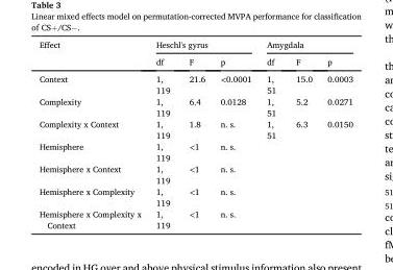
<table><thead><tr><td rowspan="2">Effect</td><td colspan="3">Heschl&#x27;s gyrus</td><td colspan="3">Amygdala</td></tr><tr><td>df</td><td>F</td><td>p</td><td>df</td><td>F</td><td>p</td></tr></thead><tbody><tr><td>Context</td><td>1, 119</td><td>21.6</td><td>&lt;0.0001</td><td>1, 51</td><td>15.0</td><td>0.0003</td></tr><tr><td>Complexity</td><td>1, 119</td><td>6.4</td><td>0.0128</td><td>1, 51</td><td>5.2</td><td>0.0271</td></tr><tr><td>Complexity x Context</td><td>1, 119</td><td>1.8</td><td>n. s.</td><td>1, 51</td><td>6.3</td><td>0.0150</td></tr><tr><td>Hemisphere</td><td>1, 119</td><td>&lt;1</td><td>n. s.</td><td></td><td></td><td></td></tr><tr><td>Hemisphere x Context</td><td>1, 119</td><td>&lt;1</td><td>n. s.</td><td></td><td></td><td></td></tr><tr><td>Hemisphere x Complexity</td><td>1, 119</td><td>&lt;1</td><td>n. s.</td><td></td><td></td><td></td></tr><tr><td>Hemisphere x Complexity x Context</td><td>1, 119</td><td>&lt;1</td><td>n. s.</td><td></td><td></td><td></td></tr></tbody></table>